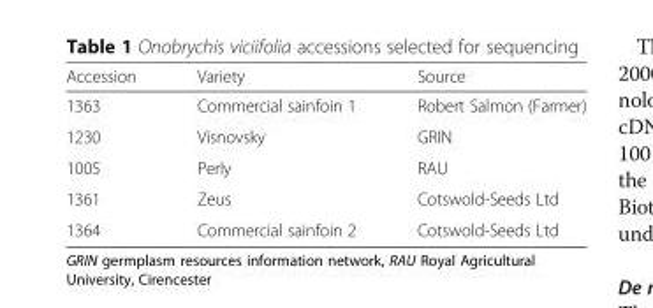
<table><thead><tr><td>Accession</td><td>Variety</td><td>Source</td></tr></thead><tbody><tr><td>1363</td><td>Commercial sainfoin 1</td><td>Robert Salmon (Farmer)</td></tr><tr><td>1230</td><td>Visnovsky</td><td>GRIN</td></tr><tr><td>1005</td><td>Perly</td><td>RAU</td></tr><tr><td>1361</td><td>Zeus</td><td>Cotswold-Seeds Ltd</td></tr><tr><td>1364</td><td>Commercial sainfoin 2</td><td>Cotswold-Seeds Ltd</td></tr></tbody></table>